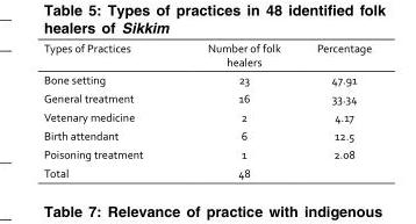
<table><thead><tr><td>Types of Practices</td><td>Number of folk healers</td><td>Percentage</td></tr></thead><tbody><tr><td>Bone setting</td><td>23</td><td>47.91</td></tr><tr><td>General treatment</td><td>16</td><td>33.34</td></tr><tr><td>Vetenary medicine</td><td>2</td><td>4.17</td></tr><tr><td>Birth attendant</td><td>6</td><td>12.5</td></tr><tr><td>Poisoning treatment</td><td>1</td><td>2.08</td></tr><tr><td>Total</td><td>48</td><td></td></tr></tbody></table>